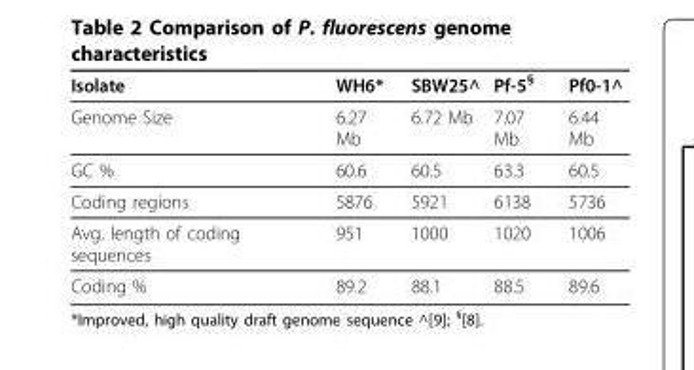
<table><thead><tr><td>Isolate</td><td>WH6*</td><td>SBW25^</td><td>Pf-5<sup>§</sup></td><td>Pf0-1^</td></tr></thead><tbody><tr><td>Genome Size</td><td>6.27 Mb</td><td>6.72 Mb</td><td>7.07 Mb</td><td>6.44 Mb</td></tr><tr><td>GC %</td><td>60.6</td><td>60.5</td><td>63.3</td><td>60.5</td></tr><tr><td>Coding regions</td><td>5876</td><td>5921</td><td>6138</td><td>5736</td></tr><tr><td>Avg. length of coding sequences</td><td>951</td><td>1000</td><td>1020</td><td>1006</td></tr><tr><td>Coding %</td><td>89.2</td><td>88.1</td><td>88.5</td><td>89.6</td></tr></tbody></table>